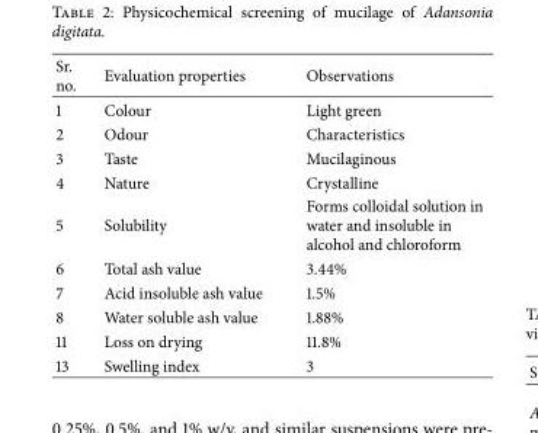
<table><thead><tr><td>Sr. no.</td><td>Evaluation properties</td><td>Observations</td></tr></thead><tbody><tr><td>1</td><td>Colour</td><td>Light green</td></tr><tr><td>2</td><td>Odour</td><td>Characteristics</td></tr><tr><td>3</td><td>Taste</td><td>Mucilaginous</td></tr><tr><td>4</td><td>Nature</td><td>Crystalline</td></tr><tr><td>5</td><td>Solubility</td><td>Forms colloidal solution in water and insoluble in alcohol and chloroform</td></tr><tr><td>6</td><td>Total ash value</td><td>3.44%</td></tr><tr><td>7</td><td>Acid insoluble ash value</td><td>1.5%</td></tr><tr><td>8</td><td>Water soluble ash value</td><td>1.88%</td></tr><tr><td>11</td><td>Loss on drying</td><td>11.8%</td></tr><tr><td>13</td><td>Swelling index</td><td>3</td></tr></tbody></table>